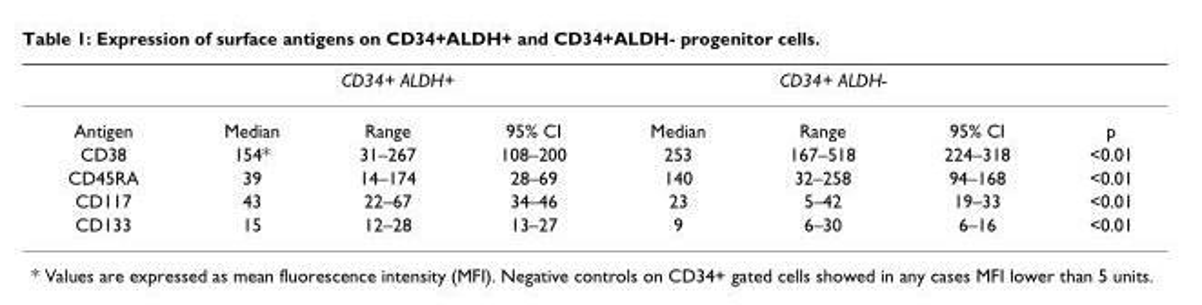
<table><thead><tr><td rowspan="2">Antigen</td><td colspan="3">CD34+ ALDH+</td><td colspan="3">CD34+ ALDH-</td><td rowspan="2">p</td></tr><tr><td>Median</td><td>Range</td><td>95% CI</td><td>Median</td><td>Range</td><td>95% CI</td></tr></thead><tbody><tr><td>CD38</td><td>154*</td><td>31–267</td><td>108–200</td><td>253</td><td>167–518</td><td>224–318</td><td>&lt;0.01</td></tr><tr><td>CD45RA</td><td>39</td><td>14–174</td><td>28–69</td><td>140</td><td>32–258</td><td>94–168</td><td>&lt;0.01</td></tr><tr><td>CD117</td><td>43</td><td>22–67</td><td>34–46</td><td>23</td><td>5–42</td><td>19–33</td><td>&lt;0.01</td></tr><tr><td>CD133</td><td>15</td><td>12–28</td><td>13–27</td><td>9</td><td>6–30</td><td>6–16</td><td>&lt;0.01</td></tr></tbody></table>